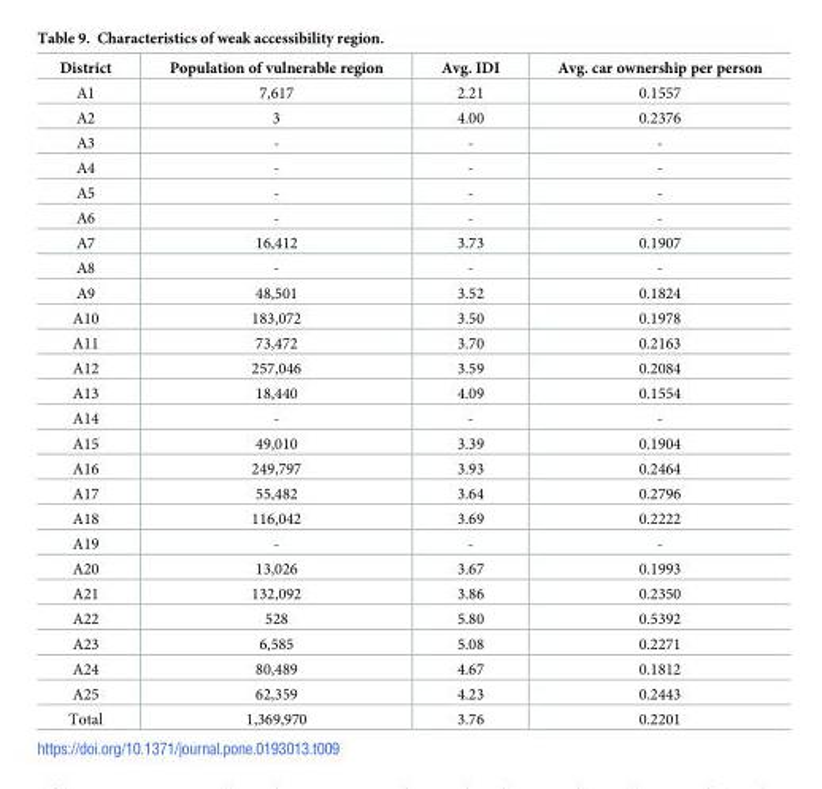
<table><thead><tr><td>District</td><td>Population of vulnerable region</td><td>Avg. IDI</td><td>Avg. car ownership per person</td></tr></thead><tbody><tr><td>A1</td><td>7,617</td><td>2.21</td><td>0.1557</td></tr><tr><td>A2</td><td>3</td><td>4.00</td><td>0.2376</td></tr><tr><td>A3</td><td>-</td><td>-</td><td>-</td></tr><tr><td>A4</td><td>-</td><td>-</td><td>-</td></tr><tr><td>A5</td><td>-</td><td>-</td><td>-</td></tr><tr><td>A6</td><td>-</td><td>-</td><td>-</td></tr><tr><td>A7</td><td>16,412</td><td>3.73</td><td>0.1907</td></tr><tr><td>A8</td><td>-</td><td>-</td><td>-</td></tr><tr><td>A9</td><td>48,501</td><td>3.52</td><td>0.1824</td></tr><tr><td>A10</td><td>183,072</td><td>3.50</td><td>0.1978</td></tr><tr><td>A11</td><td>73,472</td><td>3.70</td><td>0.2163</td></tr><tr><td>A12</td><td>257,046</td><td>3.59</td><td>0.2084</td></tr><tr><td>A13</td><td>18,440</td><td>4.09</td><td>0.1554</td></tr><tr><td>A14</td><td>-</td><td>-</td><td>-</td></tr><tr><td>A15</td><td>49,010</td><td>3.39</td><td>0.1904</td></tr><tr><td>A16</td><td>249,797</td><td>3.93</td><td>0.2464</td></tr><tr><td>A17</td><td>55,482</td><td>3.64</td><td>0.2796</td></tr><tr><td>A18</td><td>116,042</td><td>3.69</td><td>0.2222</td></tr><tr><td>A19</td><td>-</td><td>-</td><td>-</td></tr><tr><td>A20</td><td>13,026</td><td>3.67</td><td>0.1993</td></tr><tr><td>A21</td><td>132,092</td><td>3.86</td><td>0.2350</td></tr><tr><td>A22</td><td>528</td><td>5.80</td><td>0.5392</td></tr><tr><td>A23</td><td>6,585</td><td>5.08</td><td>0.2271</td></tr><tr><td>A24</td><td>80,489</td><td>4.67</td><td>0.1812</td></tr><tr><td>A25</td><td>62,359</td><td>4.23</td><td>0.2443</td></tr><tr><td>Total</td><td>1,369,970</td><td>3.76</td><td>0.2201</td></tr></tbody></table>